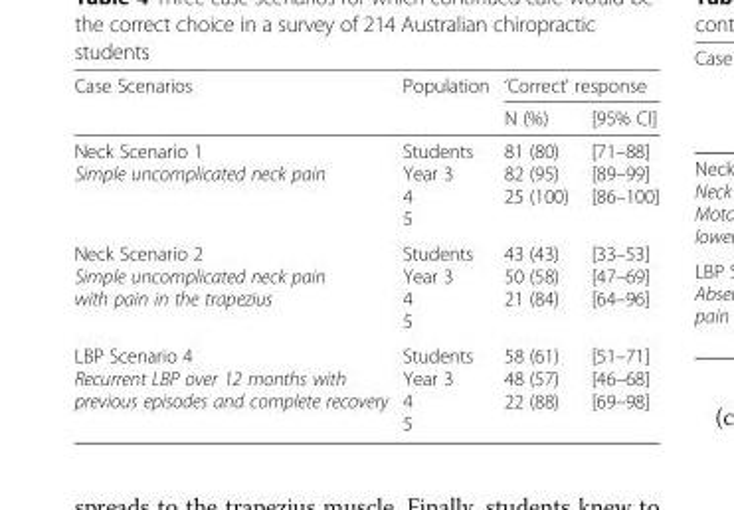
<table><thead><tr><td rowspan="2">Case Scenarios</td><td rowspan="2">Population</td><td colspan="2">‘Correct’ response</td></tr><tr><td>N (%)</td><td>[95% CI]</td></tr></thead><tbody><tr><td>Neck Scenario 1 Simple uncomplicated neck pain</td><td>Students Year 3 4 5</td><td>81 (80) 82 (95) 25 (100)</td><td>[71–88] [89–99] [86–100]</td></tr><tr><td>Neck Scenario 2 Simple uncomplicated neck pain with pain in the trapezius</td><td>Students Year 3 4 5</td><td>43 (43) 50 (58) 21 (84)</td><td>[33–53] [47–69] [64–96]</td></tr><tr><td>LBP Scenario 4 Recurrent LBP over 12 months with previous episodes and complete recovery</td><td>Students Year 3 4 5</td><td>58 (61) 48 (57) 22 (88)</td><td>[51–71] [46–68] [69–98]</td></tr></tbody></table>